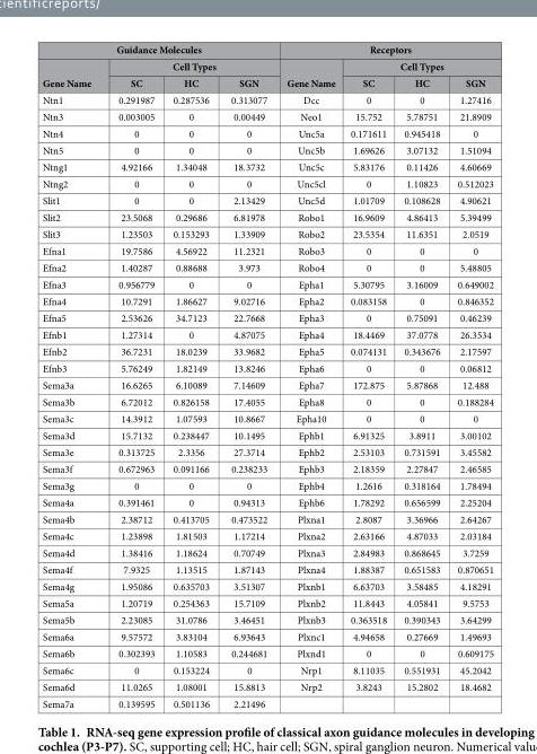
<table><thead><tr><td colspan="4">Guidance Molecules</td><td colspan="4">Receptors</td></tr><tr><td rowspan="2">Gene Name</td><td colspan="3">Cell Types</td><td rowspan="2">Gene Name</td><td colspan="3">Cell Types</td></tr><tr><td>SC</td><td>HC</td><td>SGN</td><td>SC</td><td>HC</td><td>SGN</td></tr></thead><tbody><tr><td>Ntn1</td><td>0.291987</td><td>0.287536</td><td>0.313077</td><td>Dcc</td><td>0</td><td>0</td><td>1.27416</td></tr><tr><td>Ntn3</td><td>0.003005</td><td>0</td><td>0.00449</td><td>Neo1</td><td>15.752</td><td>5.78751</td><td>21.8909</td></tr><tr><td>Ntn4</td><td>0</td><td>0</td><td>0</td><td>Unc5a</td><td>0.171611</td><td>0.945418</td><td>0</td></tr><tr><td>Ntn5</td><td>0</td><td>0</td><td>0</td><td>Unc5b</td><td>1.69626</td><td>3.07132</td><td>1.51094</td></tr><tr><td>Ntng1</td><td>4.92166</td><td>1.34048</td><td>18.3732</td><td>Unc5c</td><td>5.83176</td><td>0.11426</td><td>4.60669</td></tr><tr><td>Ntng2</td><td>0</td><td>0</td><td>0</td><td>Unc5cl</td><td>0</td><td>1.10823</td><td>0.512023</td></tr><tr><td>Slit1</td><td>0</td><td>0</td><td>2.13429</td><td>Unc5d</td><td>1.01709</td><td>0.108628</td><td>4.90621</td></tr><tr><td>Slit2</td><td>23.5068</td><td>0.29686</td><td>6.81978</td><td>Robo1</td><td>16.9609</td><td>4.86413</td><td>5.39499</td></tr><tr><td>Slit3</td><td>1.23503</td><td>0.153293</td><td>1.33909</td><td>Robo2</td><td>23.5354</td><td>11.6351</td><td>2.0519</td></tr><tr><td>Efna1</td><td>19.7586</td><td>4.56922</td><td>11.2321</td><td>Robo3</td><td>0</td><td>0</td><td>0</td></tr><tr><td>Efna2</td><td>1.40287</td><td>0.88688</td><td>3.973</td><td>Robo4</td><td>0</td><td>0</td><td>5.48805</td></tr><tr><td>Efna3</td><td>0.956779</td><td>0</td><td>0</td><td>Epha1</td><td>5.30795</td><td>3.16009</td><td>0.649002</td></tr><tr><td>Efna4</td><td>10.7291</td><td>1.86627</td><td>9.02716</td><td>Epha2</td><td>0.083158</td><td>0</td><td>0.846352</td></tr><tr><td>Efna5</td><td>2.53626</td><td>34.7123</td><td>22.7668</td><td>Epha3</td><td>0</td><td>0.75091</td><td>0.46239</td></tr><tr><td>Efnb1</td><td>1.27314</td><td>0</td><td>4.87075</td><td>Epha4</td><td>18.4469</td><td>37.0778</td><td>26.3534</td></tr><tr><td>Efnb2</td><td>36.7231</td><td>18.0239</td><td>33.9682</td><td>Epha5</td><td>0.074131</td><td>0.343676</td><td>2.17597</td></tr><tr><td>Efnb3</td><td>5.76249</td><td>1.82149</td><td>13.8246</td><td>Epha6</td><td>0</td><td>0</td><td>0.06812</td></tr><tr><td>Sema3a</td><td>16.6265</td><td>6.10089</td><td>7.14609</td><td>Epha7</td><td>172.875</td><td>5.87868</td><td>12.488</td></tr><tr><td>Sema3b</td><td>6.72012</td><td>0.826158</td><td>17.4055</td><td>Epha8</td><td>0</td><td>0</td><td>0.188284</td></tr><tr><td>Sema3c</td><td>14.3912</td><td>1.07593</td><td>10.8667</td><td>Epha10</td><td>0</td><td>0</td><td>0</td></tr><tr><td>Sema3d</td><td>15.7132</td><td>0.238447</td><td>10.1495</td><td>Ephb1</td><td>6.91325</td><td>3.8911</td><td>3.00102</td></tr><tr><td>Sema3e</td><td>0.313725</td><td>2.3356</td><td>27.3714</td><td>Ephb2</td><td>2.53103</td><td>0.731591</td><td>3.45582</td></tr><tr><td>Sema3f</td><td>0.672963</td><td>0.091166</td><td>0.238233</td><td>Ephb3</td><td>2.18359</td><td>2.27847</td><td>2.46585</td></tr><tr><td>Sema3g</td><td>0</td><td>0</td><td>0</td><td>Ephb4</td><td>1.2616</td><td>0.318164</td><td>1.78494</td></tr><tr><td>Sema4a</td><td>0.391461</td><td>0</td><td>0.94313</td><td>Ephb6</td><td>1.78292</td><td>0.656599</td><td>2.25204</td></tr><tr><td>Sema4b</td><td>2.38712</td><td>0.413705</td><td>0.473522</td><td>Plxna1</td><td>2.8087</td><td>3.36966</td><td>2.64267</td></tr><tr><td>Sema4c</td><td>1.23898</td><td>1.81503</td><td>1.17214</td><td>Plxna2</td><td>2.63166</td><td>4.87033</td><td>2.03184</td></tr><tr><td>Sema4d</td><td>1.38416</td><td>1.18624</td><td>0.70749</td><td>Plxna3</td><td>2.84983</td><td>0.868645</td><td>3.7259</td></tr><tr><td>Sema4f</td><td>7.9325</td><td>1.13515</td><td>1.87143</td><td>Plxna4</td><td>1.88387</td><td>0.651583</td><td>0.870651</td></tr><tr><td>Sema4g</td><td>1.95086</td><td>0.635703</td><td>3.51307</td><td>Plxnb1</td><td>6.63703</td><td>3.58485</td><td>4.18291</td></tr><tr><td>Sema5a</td><td>1.20719</td><td>0.254363</td><td>15.7109</td><td>Plxnb2</td><td>11.8443</td><td>4.05841</td><td>9.5753</td></tr><tr><td>Sema5b</td><td>2.23085</td><td>31.0786</td><td>3.46451</td><td>Plxnb3</td><td>0.363518</td><td>0.390343</td><td>3.64299</td></tr><tr><td>Sema6a</td><td>9.57572</td><td>3.83104</td><td>6.93643</td><td>Plxnc1</td><td>4.94658</td><td>0.27669</td><td>1.49693</td></tr><tr><td>Sema6b</td><td>0.302393</td><td>1.10583</td><td>0.244681</td><td>Plxnd1</td><td>0</td><td>0</td><td>0.609175</td></tr><tr><td>Sema6c</td><td>0</td><td>0.153224</td><td>0</td><td>Nrp1</td><td>8.11035</td><td>0.551931</td><td>45.2042</td></tr><tr><td>Sema6d</td><td>11.0265</td><td>1.08001</td><td>15.8813</td><td>Nrp2</td><td>3.8243</td><td>15.2802</td><td>18.4682</td></tr><tr><td>Sema7a</td><td>0.139595</td><td>0.501136</td><td>2.21496</td><td></td><td></td><td></td><td></td></tr></tbody></table>